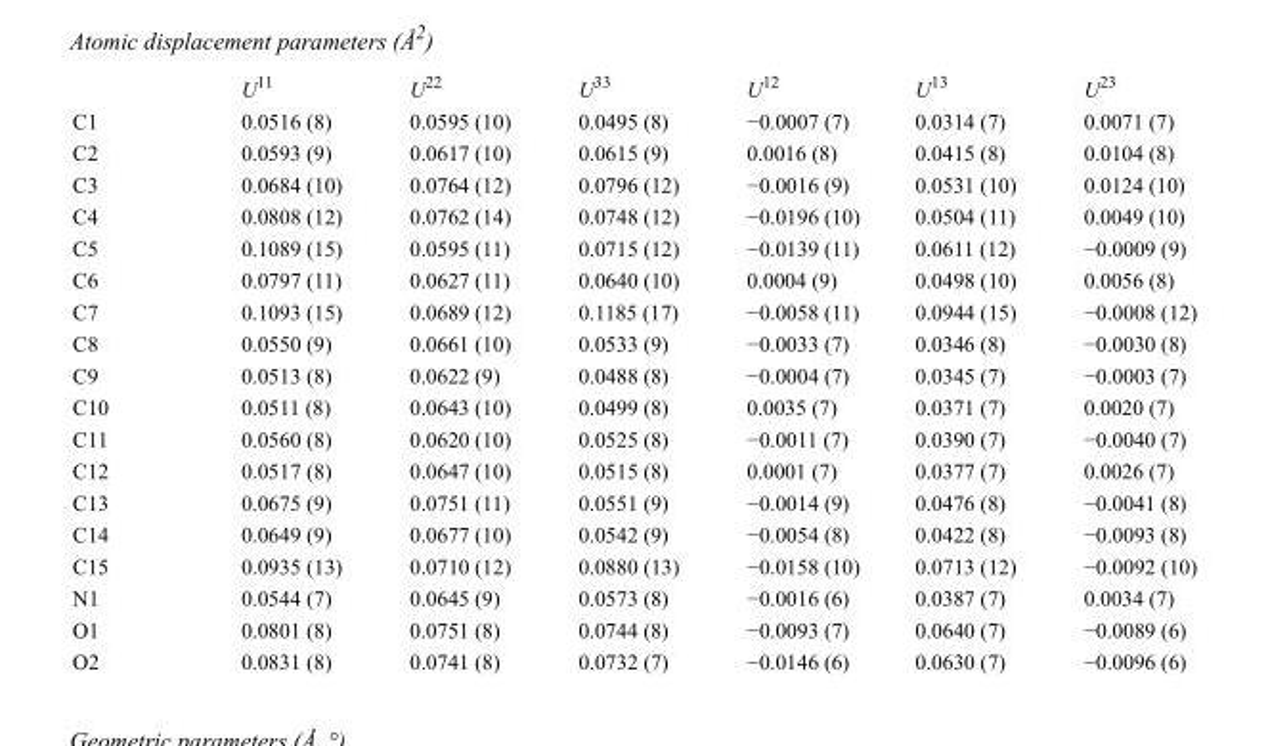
<table><thead><tr><td></td><td>U<sup>11</sup></td><td>U<sup>22</sup></td><td>U<sup>33</sup></td><td>U<sup>12</sup></td><td>U<sup>13</sup></td><td>U<sup>23</sup></td></tr></thead><tbody><tr><td>C1</td><td>0.0516 (8)</td><td>0.0595 (10)</td><td>0.0495 (8)</td><td>−0.0007 (7)</td><td>0.0314 (7)</td><td>0.0071 (7)</td></tr><tr><td>C2</td><td>0.0593 (9)</td><td>0.0617 (10)</td><td>0.0615 (9)</td><td>0.0016 (8)</td><td>0.0415 (8)</td><td>0.0104 (8)</td></tr><tr><td>C3</td><td>0.0684 (10)</td><td>0.0764 (12)</td><td>0.0796 (12)</td><td>−0.0016 (9)</td><td>0.0531 (10)</td><td>0.0124 (10)</td></tr><tr><td>C4</td><td>0.0808 (12)</td><td>0.0762 (14)</td><td>0.0748 (12)</td><td>−0.0196 (10)</td><td>0.0504 (11)</td><td>0.0049 (10)</td></tr><tr><td>C5</td><td>0.1089 (15)</td><td>0.0595 (11)</td><td>0.0715 (12)</td><td>−0.0139 (11)</td><td>0.0611 (12)</td><td>−0.0009 (9)</td></tr><tr><td>C6</td><td>0.0797 (11)</td><td>0.0627 (11)</td><td>0.0640 (10)</td><td>0.0004 (9)</td><td>0.0498 (10)</td><td>0.0056 (8)</td></tr><tr><td>C7</td><td>0.1093 (15)</td><td>0.0689 (12)</td><td>0.1185 (17)</td><td>−0.0058 (11)</td><td>0.0944 (15)</td><td>−0.0008 (12)</td></tr><tr><td>C8</td><td>0.0550 (9)</td><td>0.0661 (10)</td><td>0.0533 (9)</td><td>−0.0033 (7)</td><td>0.0346 (8)</td><td>−0.0030 (8)</td></tr><tr><td>C9</td><td>0.0513 (8)</td><td>0.0622 (9)</td><td>0.0488 (8)</td><td>−0.0004 (7)</td><td>0.0345 (7)</td><td>−0.0003 (7)</td></tr><tr><td>C10</td><td>0.0511 (8)</td><td>0.0643 (10)</td><td>0.0499 (8)</td><td>0.0035 (7)</td><td>0.0371 (7)</td><td>0.0020 (7)</td></tr><tr><td>C11</td><td>0.0560 (8)</td><td>0.0620 (10)</td><td>0.0525 (8)</td><td>−0.0011 (7)</td><td>0.0390 (7)</td><td>−0.0040 (7)</td></tr><tr><td>C12</td><td>0.0517 (8)</td><td>0.0647 (10)</td><td>0.0515 (8)</td><td>0.0001 (7)</td><td>0.0377 (7)</td><td>0.0026 (7)</td></tr><tr><td>C13</td><td>0.0675 (9)</td><td>0.0751 (11)</td><td>0.0551 (9)</td><td>−0.0014 (9)</td><td>0.0476 (8)</td><td>−0.0041 (8)</td></tr><tr><td>C14</td><td>0.0649 (9)</td><td>0.0677 (10)</td><td>0.0542 (9)</td><td>−0.0054 (8)</td><td>0.0422 (8)</td><td>−0.0093 (8)</td></tr><tr><td>C15</td><td>0.0935 (13)</td><td>0.0710 (12)</td><td>0.0880 (13)</td><td>−0.0158 (10)</td><td>0.0713 (12)</td><td>−0.0092 (10)</td></tr><tr><td>N1</td><td>0.0544 (7)</td><td>0.0645 (9)</td><td>0.0573 (8)</td><td>−0.0016 (6)</td><td>0.0387 (7)</td><td>0.0034 (7)</td></tr><tr><td>O1</td><td>0.0801 (8)</td><td>0.0751 (8)</td><td>0.0744 (8)</td><td>−0.0093 (7)</td><td>0.0640 (7)</td><td>−0.0089 (6)</td></tr><tr><td>O2</td><td>0.0831 (8)</td><td>0.0741 (8)</td><td>0.0732 (7)</td><td>−0.0146 (6)</td><td>0.0630 (7)</td><td>−0.0096 (6)</td></tr></tbody></table>